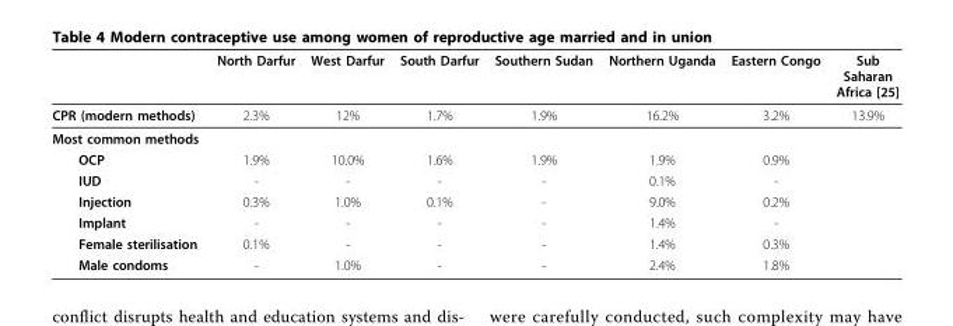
<table><thead><tr><td></td><td>North Darfur</td><td>West Darfur</td><td>South Darfur</td><td>Southern Sudan</td><td>Northern Uganda</td><td>Eastern Congo</td><td>Sub Saharan Africa [25]</td></tr></thead><tbody><tr><td>CPR (modern methods)</td><td>2.3%</td><td>12%</td><td>1.7%</td><td>1.9%</td><td>16.2%</td><td>3.2%</td><td>13.9%</td></tr><tr><td colspan="8">Most common methods</td></tr><tr><td>OCP</td><td>1.9%</td><td>10.0%</td><td>1.6%</td><td>1.9%</td><td>1.9%</td><td>0.9%</td><td></td></tr><tr><td>IUD</td><td>-</td><td>-</td><td>-</td><td>-</td><td>0.1%</td><td>-</td><td></td></tr><tr><td>Injection</td><td>0.3%</td><td>1.0%</td><td>0.1%</td><td>-</td><td>9.0%</td><td>0.2%</td><td></td></tr><tr><td>Implant</td><td>-</td><td>-</td><td>-</td><td>-</td><td>1.4%</td><td>-</td><td></td></tr><tr><td>Female sterilisation</td><td>0.1%</td><td>-</td><td>-</td><td>-</td><td>1.4%</td><td>0.3%</td><td></td></tr><tr><td>Male condoms</td><td>-</td><td>1.0%</td><td>-</td><td>-</td><td>2.4%</td><td>1.8%</td><td></td></tr></tbody></table>